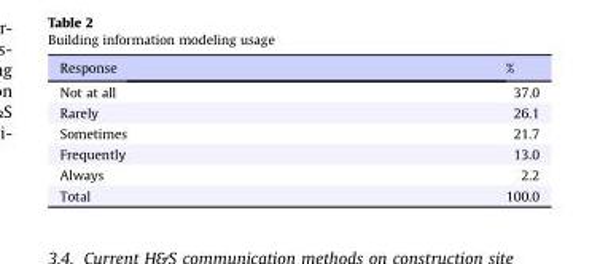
<table><thead><tr><td>Response</td><td>%</td></tr></thead><tbody><tr><td>Not at all</td><td>37.0</td></tr><tr><td>Rarely</td><td>26.1</td></tr><tr><td>Sometimes</td><td>21.7</td></tr><tr><td>Frequently</td><td>13.0</td></tr><tr><td>Always</td><td>2.2</td></tr><tr><td>Total</td><td>100.0</td></tr></tbody></table>